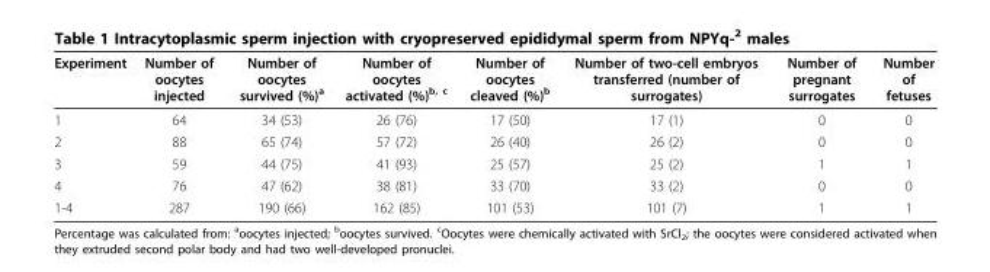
<table><thead><tr><td>Experiment</td><td>Number of oocytes injected</td><td>Number of oocytes survived (%)<sup>a</sup></td><td>Number of oocytes activated (%)<sup>b, c</sup></td><td>Number of oocytes cleaved (%)<sup>b</sup></td><td>Number of two-cell embryos transferred (number of surrogates)</td><td>Number of pregnant surrogates</td><td>Number of fetuses</td></tr></thead><tbody><tr><td>1</td><td>64</td><td>34 (53)</td><td>26 (76)</td><td>17 (50)</td><td>17 (1)</td><td>0</td><td>0</td></tr><tr><td>2</td><td>88</td><td>65 (74)</td><td>57 (72)</td><td>26 (40)</td><td>26 (2)</td><td>0</td><td>0</td></tr><tr><td>3</td><td>59</td><td>44 (75)</td><td>41 (93)</td><td>25 (57)</td><td>25 (2)</td><td>1</td><td>1</td></tr><tr><td>4</td><td>76</td><td>47 (62)</td><td>38 (81)</td><td>33 (70)</td><td>33 (2)</td><td>0</td><td>0</td></tr><tr><td>1-4</td><td>287</td><td>190 (66)</td><td>162 (85)</td><td>101 (53)</td><td>101 (7)</td><td>1</td><td>1</td></tr></tbody></table>